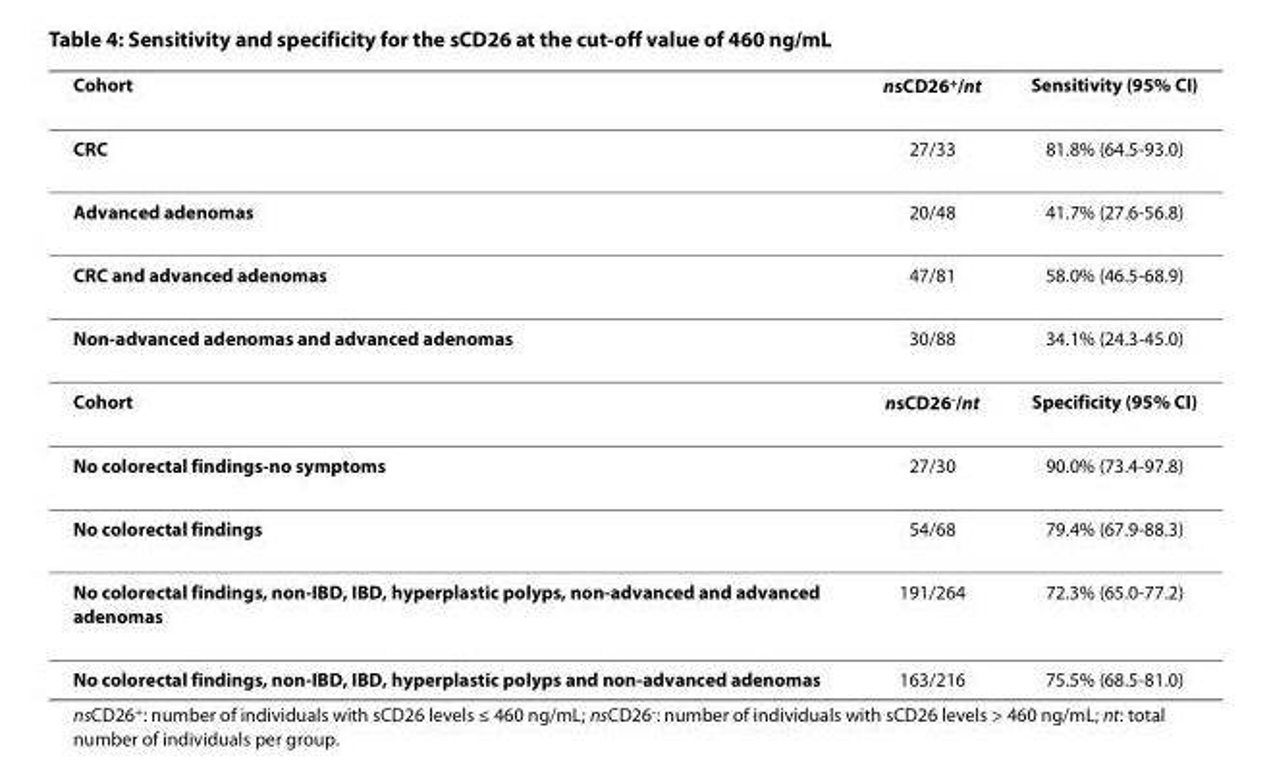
<table><thead><tr><td>Cohort</td><td>nsCD26<sup>+</sup>/nt</td><td>Sensitivity (95% CI)</td></tr></thead><tbody><tr><td>CRC</td><td>27/33</td><td>81.8% (64.5-93.0)</td></tr><tr><td>Advanced adenomas</td><td>20/48</td><td>41.7% (27.6-56.8)</td></tr><tr><td>CRC and advanced adenomas</td><td>47/81</td><td>58.0% (46.5-68.9)</td></tr><tr><td>Non-advanced adenomas and advanced adenomas</td><td>30/88</td><td>34.1% (24.3-45.0)</td></tr><tr><td>Cohort</td><td>nsCD26<sup>-</sup>/nt</td><td>Specificity (95% CI)</td></tr><tr><td>No colorectal findings-no symptoms</td><td>27/30</td><td>90.0% (73.4-97.8)</td></tr><tr><td>No colorectal findings</td><td>54/68</td><td>79.4% (67.9-88.3)</td></tr><tr><td>No colorectal findings, non-IBD, IBD, hyperplastic polyps, non-advanced and advanced adenomas</td><td>191/264</td><td>72.3% (65.0-77.2)</td></tr><tr><td>No colorectal findings, non-IBD, IBD, hyperplastic polyps and non-advanced adenomas</td><td>163/216</td><td>75.5% (68.5-81.0)</td></tr></tbody></table>